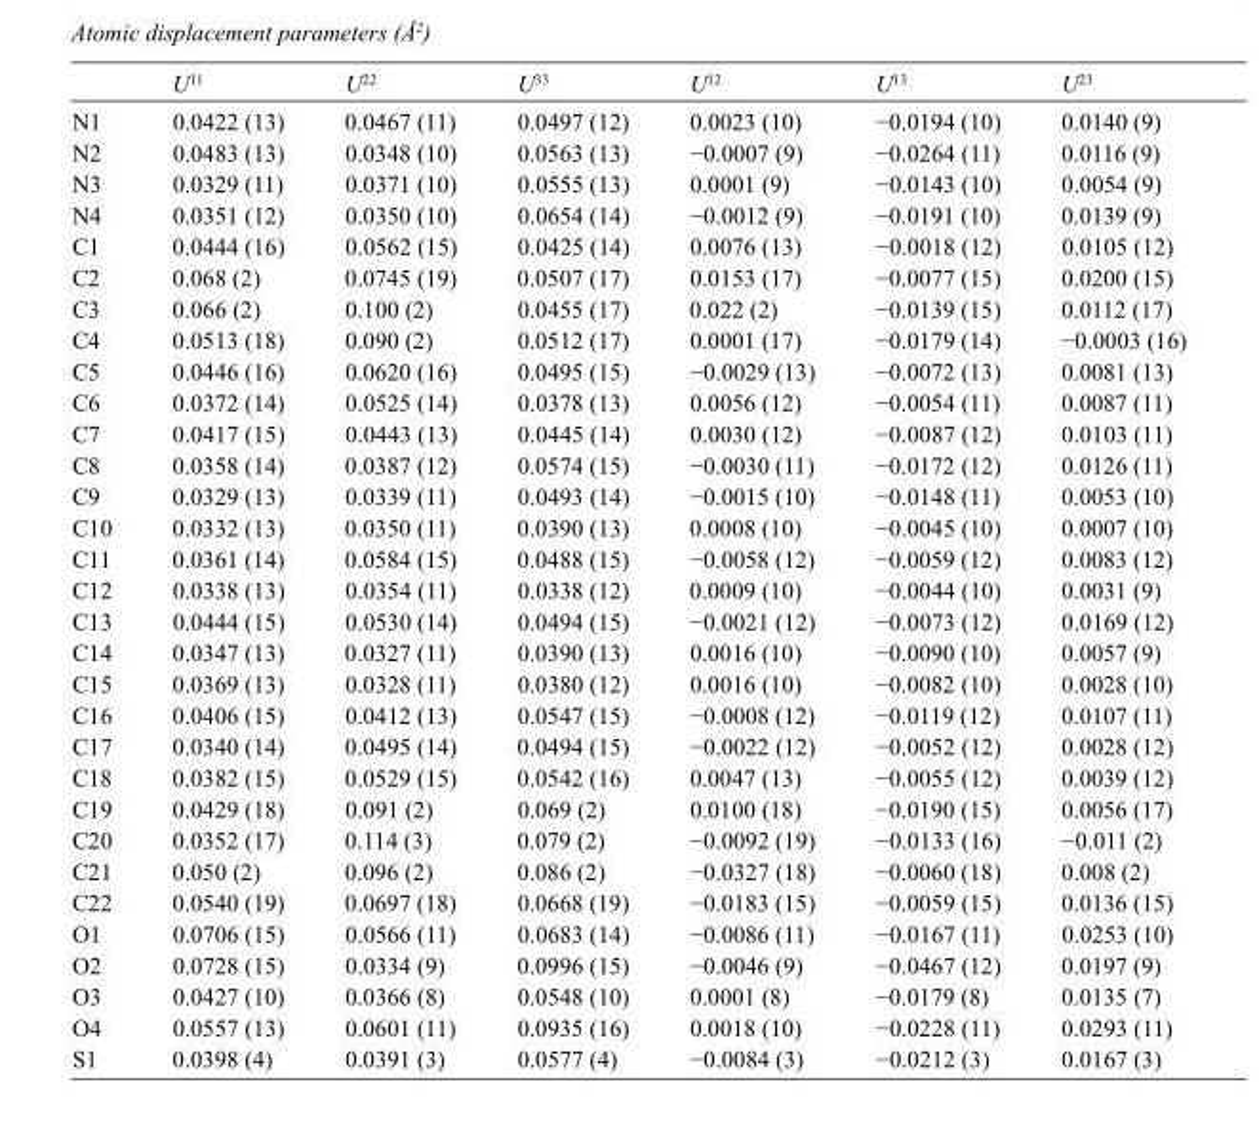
<table><thead><tr><td></td><td>U<sup>11</sup></td><td>U<sup>22</sup></td><td>U<sup>33</sup></td><td>U<sup>12</sup></td><td>U<sup>13</sup></td><td>U<sup>23</sup></td></tr></thead><tbody><tr><td>N1</td><td>0.0422 (13)</td><td>0.0467 (11)</td><td>0.0497 (12)</td><td>0.0023 (10)</td><td>−0.0194 (10)</td><td>0.0140 (9)</td></tr><tr><td>N2</td><td>0.0483 (13)</td><td>0.0348 (10)</td><td>0.0563 (13)</td><td>−0.0007 (9)</td><td>−0.0264 (11)</td><td>0.0116 (9)</td></tr><tr><td>N3</td><td>0.0329 (11)</td><td>0.0371 (10)</td><td>0.0555 (13)</td><td>0.0001 (9)</td><td>−0.0143 (10)</td><td>0.0054 (9)</td></tr><tr><td>N4</td><td>0.0351 (12)</td><td>0.0350 (10)</td><td>0.0654 (14)</td><td>−0.0012 (9)</td><td>−0.0191 (10)</td><td>0.0139 (9)</td></tr><tr><td>C1</td><td>0.0444 (16)</td><td>0.0562 (15)</td><td>0.0425 (14)</td><td>0.0076 (13)</td><td>−0.0018 (12)</td><td>0.0105 (12)</td></tr><tr><td>C2</td><td>0.068 (2)</td><td>0.0745 (19)</td><td>0.0507 (17)</td><td>0.0153 (17)</td><td>−0.0077 (15)</td><td>0.0200 (15)</td></tr><tr><td>C3</td><td>0.066 (2)</td><td>0.100 (2)</td><td>0.0455 (17)</td><td>0.022 (2)</td><td>−0.0139 (15)</td><td>0.0112 (17)</td></tr><tr><td>C4</td><td>0.0513 (18)</td><td>0.090 (2)</td><td>0.0512 (17)</td><td>0.0001 (17)</td><td>−0.0179 (14)</td><td>−0.0003 (16)</td></tr><tr><td>C5</td><td>0.0446 (16)</td><td>0.0620 (16)</td><td>0.0495 (15)</td><td>−0.0029 (13)</td><td>−0.0072 (13)</td><td>0.0081 (13)</td></tr><tr><td>C6</td><td>0.0372 (14)</td><td>0.0525 (14)</td><td>0.0378 (13)</td><td>0.0056 (12)</td><td>−0.0054 (11)</td><td>0.0087 (11)</td></tr><tr><td>C7</td><td>0.0417 (15)</td><td>0.0443 (13)</td><td>0.0445 (14)</td><td>0.0030 (12)</td><td>−0.0087 (12)</td><td>0.0103 (11)</td></tr><tr><td>C8</td><td>0.0358 (14)</td><td>0.0387 (12)</td><td>0.0574 (15)</td><td>−0.0030 (11)</td><td>−0.0172 (12)</td><td>0.0126 (11)</td></tr><tr><td>C9</td><td>0.0329 (13)</td><td>0.0339 (11)</td><td>0.0493 (14)</td><td>−0.0015 (10)</td><td>−0.0148 (11)</td><td>0.0053 (10)</td></tr><tr><td>C10</td><td>0.0332 (13)</td><td>0.0350 (11)</td><td>0.0390 (13)</td><td>0.0008 (10)</td><td>−0.0045 (10)</td><td>0.0007 (10)</td></tr><tr><td>C11</td><td>0.0361 (14)</td><td>0.0584 (15)</td><td>0.0488 (15)</td><td>−0.0058 (12)</td><td>−0.0059 (12)</td><td>0.0083 (12)</td></tr><tr><td>C12</td><td>0.0338 (13)</td><td>0.0354 (11)</td><td>0.0338 (12)</td><td>0.0009 (10)</td><td>−0.0044 (10)</td><td>0.0031 (9)</td></tr><tr><td>C13</td><td>0.0444 (15)</td><td>0.0530 (14)</td><td>0.0494 (15)</td><td>−0.0021 (12)</td><td>−0.0073 (12)</td><td>0.0169 (12)</td></tr><tr><td>C14</td><td>0.0347 (13)</td><td>0.0327 (11)</td><td>0.0390 (13)</td><td>0.0016 (10)</td><td>−0.0090 (10)</td><td>0.0057 (9)</td></tr><tr><td>C15</td><td>0.0369 (13)</td><td>0.0328 (11)</td><td>0.0380 (12)</td><td>0.0016 (10)</td><td>−0.0082 (10)</td><td>0.0028 (10)</td></tr><tr><td>C16</td><td>0.0406 (15)</td><td>0.0412 (13)</td><td>0.0547 (15)</td><td>−0.0008 (12)</td><td>−0.0119 (12)</td><td>0.0107 (11)</td></tr><tr><td>C17</td><td>0.0340 (14)</td><td>0.0495 (14)</td><td>0.0494 (15)</td><td>−0.0022 (12)</td><td>−0.0052 (12)</td><td>0.0028 (12)</td></tr><tr><td>C18</td><td>0.0382 (15)</td><td>0.0529 (15)</td><td>0.0542 (16)</td><td>0.0047 (13)</td><td>−0.0055 (12)</td><td>0.0039 (12)</td></tr><tr><td>C19</td><td>0.0429 (18)</td><td>0.091 (2)</td><td>0.069 (2)</td><td>0.0100 (18)</td><td>−0.0190 (15)</td><td>0.0056 (17)</td></tr><tr><td>C20</td><td>0.0352 (17)</td><td>0.114 (3)</td><td>0.079 (2)</td><td>−0.0092 (19)</td><td>−0.0133 (16)</td><td>−0.011 (2)</td></tr><tr><td>C21</td><td>0.050 (2)</td><td>0.096 (2)</td><td>0.086 (2)</td><td>−0.0327 (18)</td><td>−0.0060 (18)</td><td>0.008 (2)</td></tr><tr><td>C22</td><td>0.0540 (19)</td><td>0.0697 (18)</td><td>0.0668 (19)</td><td>−0.0183 (15)</td><td>−0.0059 (15)</td><td>0.0136 (15)</td></tr><tr><td>O1</td><td>0.0706 (15)</td><td>0.0566 (11)</td><td>0.0683 (14)</td><td>−0.0086 (11)</td><td>−0.0167 (11)</td><td>0.0253 (10)</td></tr><tr><td>O2</td><td>0.0728 (15)</td><td>0.0334 (9)</td><td>0.0996 (15)</td><td>−0.0046 (9)</td><td>−0.0467 (12)</td><td>0.0197 (9)</td></tr><tr><td>O3</td><td>0.0427 (10)</td><td>0.0366 (8)</td><td>0.0548 (10)</td><td>0.0001 (8)</td><td>−0.0179 (8)</td><td>0.0135 (7)</td></tr><tr><td>O4</td><td>0.0557 (13)</td><td>0.0601 (11)</td><td>0.0935 (16)</td><td>0.0018 (10)</td><td>−0.0228 (11)</td><td>0.0293 (11)</td></tr><tr><td>S1</td><td>0.0398 (4)</td><td>0.0391 (3)</td><td>0.0577 (4)</td><td>−0.0084 (3)</td><td>−0.0212 (3)</td><td>0.0167 (3)</td></tr></tbody></table>